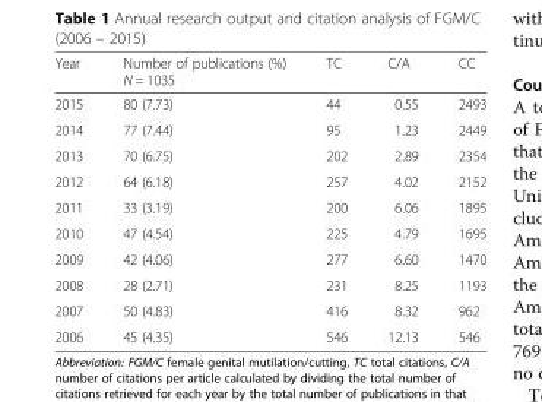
<table><thead><tr><td>Year</td><td>Number of publications (%) N = 1035</td><td>TC</td><td>C/A</td><td>CC</td></tr></thead><tbody><tr><td>2015</td><td>80 (7.73)</td><td>44</td><td>0.55</td><td>2493</td></tr><tr><td>2014</td><td>77 (7.44)</td><td>95</td><td>1.23</td><td>2449</td></tr><tr><td>2013</td><td>70 (6.75)</td><td>202</td><td>2.89</td><td>2354</td></tr><tr><td>2012</td><td>64 (6.18)</td><td>257</td><td>4.02</td><td>2152</td></tr><tr><td>2011</td><td>33 (3.19)</td><td>200</td><td>6.06</td><td>1895</td></tr><tr><td>2010</td><td>47 (4.54)</td><td>225</td><td>4.79</td><td>1695</td></tr><tr><td>2009</td><td>42 (4.06)</td><td>277</td><td>6.60</td><td>1470</td></tr><tr><td>2008</td><td>28 (2.71)</td><td>231</td><td>8.25</td><td>1193</td></tr><tr><td>2007</td><td>50 (4.83)</td><td>416</td><td>8.32</td><td>962</td></tr><tr><td>2006</td><td>45 (4.35)</td><td>546</td><td>12.13</td><td>546</td></tr></tbody></table>